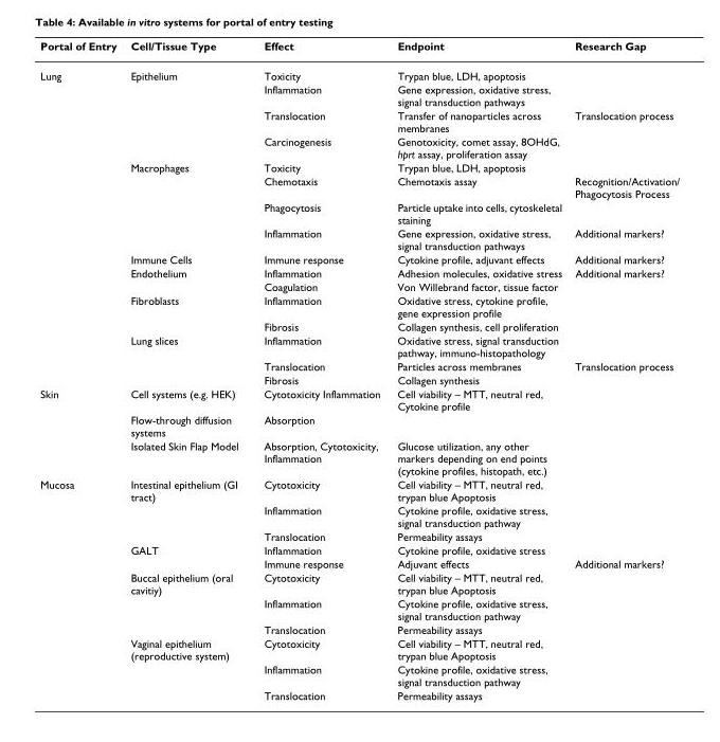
<table><thead><tr><td>Portal of Entry</td><td>Cell/Tissue Type</td><td>Effect</td><td>Endpoint</td><td>Research Gap</td></tr></thead><tbody><tr><td rowspan="16">Lung</td><td>Epithelium</td><td>Toxicity</td><td>Trypan blue, LDH, apoptosis</td><td></td></tr><tr><td></td><td>Inflammation</td><td>Gene expression, oxidative stress, signal transduction pathways</td><td></td></tr><tr><td></td><td>Translocation</td><td>Transfer of nanoparticles across membranes</td><td>Translocation process</td></tr><tr><td></td><td>Carcinogenesis</td><td>Genotoxicity, comet assay, 8OHdG, hprt assay, proliferation assay</td><td></td></tr><tr><td>Macrophages</td><td>Toxicity</td><td>Trypan blue, LDH, apoptosis</td><td></td></tr><tr><td></td><td>Chemotaxis</td><td>Chemotaxis assay</td><td>Recognition/Activation/ Phagocytosis Process</td></tr><tr><td></td><td>Phagocytosis</td><td>Particle uptake into cells, cytoskeletal staining</td><td></td></tr><tr><td></td><td>Inflammation</td><td>Gene expression, oxidative stress, signal transduction pathways</td><td>Additional markers?</td></tr><tr><td>Immune Cells</td><td>Immune response</td><td>Cytokine profile, adjuvant effects</td><td>Additional markers?</td></tr><tr><td>Endothelium</td><td>Inflammation</td><td>Adhesion molecules, oxidative stress</td><td>Additional markers?</td></tr><tr><td></td><td>Coagulation</td><td>Von Willebrand factor, tissue factor</td><td></td></tr><tr><td>Fibroblasts</td><td>Inflammation</td><td>Oxidative stress, cytokine profile, gene expression profile</td><td></td></tr><tr><td></td><td>Fibrosis</td><td>Collagen synthesis, cell proliferation</td><td></td></tr><tr><td>Lung slices</td><td>Inflammation</td><td>Oxidative stress, signal transduction pathway, immuno-histopathology</td><td></td></tr><tr><td></td><td>Translocation</td><td>Particles across membranes</td><td>Translocation process</td></tr><tr><td></td><td>Fibrosis</td><td>Collagen synthesis</td><td></td></tr><tr><td rowspan="3">Skin</td><td>Cell systems (e.g. HEK)</td><td>Cytotoxicity Inflammation</td><td>Cell viability – MTT, neutral red, Cytokine profile</td><td></td></tr><tr><td>Flow-through diffusion systems</td><td>Absorption</td><td></td><td></td></tr><tr><td>Isolated Skin Flap Model</td><td>Absorption, Cytotoxicity, Inflammation</td><td>Glucose utilization, any other markers depending on end points (cytokine profiles, histopath, etc.)</td><td></td></tr><tr><td rowspan="11">Mucosa</td><td>Intestinal epithelium (GI tract)</td><td>Cytotoxicity</td><td>Cell viability – MTT, neutral red, trypan blue Apoptosis</td><td></td></tr><tr><td></td><td>Inflammation</td><td>Cytokine profile, oxidative stress, signal transduction pathway</td><td></td></tr><tr><td></td><td>Translocation</td><td>Permeability assays</td><td></td></tr><tr><td>GALT</td><td>Inflammation</td><td>Cytokine profile, oxidative stress</td><td></td></tr><tr><td></td><td>Immune response</td><td>Adjuvant effects</td><td>Additional markers?</td></tr><tr><td>Buccal epithelium (oral cavitiy)</td><td>Cytotoxicity</td><td>Cell viability – MTT, neutral red, trypan blue Apoptosis</td><td></td></tr><tr><td></td><td>Inflammation</td><td>Cytokine profile, oxidative stress, signal transduction pathway</td><td></td></tr><tr><td></td><td>Translocation</td><td>Permeability assays</td><td></td></tr><tr><td>Vaginal epithelium (reproductive system)</td><td>Cytotoxicity</td><td>Cell viability – MTT, neutral red, trypan blue Apoptosis</td><td></td></tr><tr><td></td><td>Inflammation</td><td>Cytokine profile, oxidative stress, signal transduction pathway</td><td></td></tr><tr><td></td><td>Translocation</td><td>Permeability assays</td><td></td></tr></tbody></table>